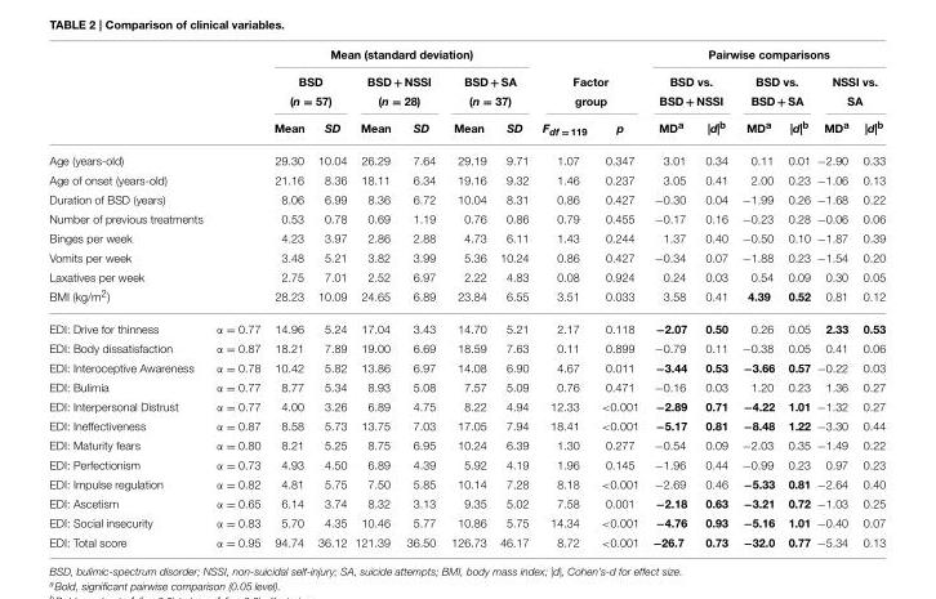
<table><thead><tr><td rowspan="3"></td><td rowspan="3"></td><td colspan="6">Mean (standard deviation)</td><td></td><td></td><td colspan="6">Pairwise comparisons</td></tr><tr><td colspan="2">BSD (n = 57)</td><td colspan="2">BSD + NSSI (n = 28)</td><td colspan="2">BSD + SA (n = 37)</td><td colspan="2">Factor group</td><td colspan="2">BSD vs. BSD + NSSI</td><td colspan="2">BSD vs. BSD + SA</td><td colspan="2">NSSI vs. SA</td></tr><tr><td>Mean</td><td>SD</td><td>Mean</td><td>SD</td><td>Mean</td><td>SD</td><td>F<sub>df</sub> = 119</td><td>p</td><td>MD<sup>a</sup></td><td>|d|<sup>b</sup></td><td>MD<sup>a</sup></td><td>|d|<sup>b</sup></td><td>MD<sup>a</sup></td><td>|d|<sup>b</sup></td></tr></thead><tbody><tr><td>Age (years-old)</td><td></td><td>29.30</td><td>10.04</td><td>26.29</td><td>7.64</td><td>29.19</td><td>9.71</td><td>1.07</td><td>0.347</td><td>3.01</td><td>0.34</td><td>0.11</td><td>0.01</td><td>−2.90</td><td>0.33</td></tr><tr><td>Age of onset (years-old)</td><td></td><td>21.16</td><td>8.36</td><td>18.11</td><td>6.34</td><td>19.16</td><td>9.32</td><td>1.46</td><td>0.237</td><td>3.05</td><td>0.41</td><td>2.00</td><td>0.23</td><td>−1.06</td><td>0.13</td></tr><tr><td>Duration of BSD (years)</td><td></td><td>8.06</td><td>6.99</td><td>8.36</td><td>6.72</td><td>10.04</td><td>8.31</td><td>0.86</td><td>0.427</td><td>−0.30</td><td>0.04</td><td>−1.99</td><td>0.26</td><td>−1.68</td><td>0.22</td></tr><tr><td>Number of previous treatments</td><td></td><td>0.53</td><td>0.78</td><td>0.69</td><td>1.19</td><td>0.76</td><td>0.86</td><td>0.79</td><td>0.455</td><td>−0.17</td><td>0.16</td><td>−0.23</td><td>0.28</td><td>−0.06</td><td>0.06</td></tr><tr><td>Binges per week</td><td></td><td>4.23</td><td>3.97</td><td>2.86</td><td>2.88</td><td>4.73</td><td>6.11</td><td>1.43</td><td>0.244</td><td>1.37</td><td>0.40</td><td>−0.50</td><td>0.10</td><td>−1.87</td><td>0.39</td></tr><tr><td>Vomits per week</td><td></td><td>3.48</td><td>5.21</td><td>3.82</td><td>3.99</td><td>5.36</td><td>10.24</td><td>0.86</td><td>0.427</td><td>−0.34</td><td>0.07</td><td>−1.88</td><td>0.23</td><td>−1.54</td><td>0.20</td></tr><tr><td>Laxatives per week</td><td></td><td>2.75</td><td>7.01</td><td>2.52</td><td>6.97</td><td>2.22</td><td>4.83</td><td>0.08</td><td>0.924</td><td>0.24</td><td>0.03</td><td>0.54</td><td>0.09</td><td>0.30</td><td>0.05</td></tr><tr><td>BMI (kg/m2)</td><td></td><td>28.23</td><td>10.09</td><td>24.65</td><td>6.89</td><td>23.84</td><td>6.55</td><td>3.51</td><td>0.033</td><td>3.58</td><td>0.41</td><td>4.39</td><td>0.52</td><td>0.81</td><td>0.12</td></tr><tr><td>EDI: Drive for thinness</td><td>α = 0.77</td><td>14.96</td><td>5.24</td><td>17.04</td><td>3.43</td><td>14.70</td><td>5.21</td><td>2.17</td><td>0.118</td><td>−2.07</td><td>0.50</td><td>0.26</td><td>0.05</td><td>2.33</td><td>0.53</td></tr><tr><td>EDI: Body dissatisfaction</td><td>α = 0.87</td><td>18.21</td><td>7.89</td><td>19.00</td><td>6.69</td><td>18.59</td><td>7.63</td><td>0.11</td><td>0.899</td><td>−0.79</td><td>0.11</td><td>−0.38</td><td>0.05</td><td>0.41</td><td>0.06</td></tr><tr><td>EDI: Interoceptive Awareness</td><td>α = 0.78</td><td>10.42</td><td>5.82</td><td>13.86</td><td>6.97</td><td>14.08</td><td>6.90</td><td>4.67</td><td>0.011</td><td>−3.44</td><td>0.53</td><td>−3.66</td><td>0.57</td><td>−0.22</td><td>0.03</td></tr><tr><td>EDI: Bulimia</td><td>α = 0.77</td><td>8.77</td><td>5.34</td><td>8.93</td><td>5.08</td><td>7.57</td><td>5.09</td><td>0.76</td><td>0.471</td><td>−0.16</td><td>0.03</td><td>1.20</td><td>0.23</td><td>1.36</td><td>0.27</td></tr><tr><td>EDI: Interpersonal Distrust</td><td>α = 0.77</td><td>4.00</td><td>3.26</td><td>6.89</td><td>4.75</td><td>8.22</td><td>4.94</td><td>12.33</td><td>&lt;0.001</td><td>−2.89</td><td>0.71</td><td>−4.22</td><td>1.01</td><td>−1.32</td><td>0.27</td></tr><tr><td>EDI: Ineffectiveness</td><td>α = 0.87</td><td>8.58</td><td>5.73</td><td>13.75</td><td>7.03</td><td>17.05</td><td>7.94</td><td>18.41</td><td>&lt;0.001</td><td>−5.17</td><td>0.81</td><td>−8.48</td><td>1.22</td><td>−3.30</td><td>0.44</td></tr><tr><td>EDI: Maturity fears</td><td>α = 0.80</td><td>8.21</td><td>5.25</td><td>8.75</td><td>6.95</td><td>10.24</td><td>6.39</td><td>1.30</td><td>0.277</td><td>−0.54</td><td>0.09</td><td>−2.03</td><td>0.35</td><td>−1.49</td><td>0.22</td></tr><tr><td>EDI: Perfectionism</td><td>α = 0.73</td><td>4.93</td><td>4.50</td><td>6.89</td><td>4.39</td><td>5.92</td><td>4.19</td><td>1.96</td><td>0.145</td><td>−1.96</td><td>0.44</td><td>−0.99</td><td>0.23</td><td>0.97</td><td>0.23</td></tr><tr><td>EDI: Impulse regulation</td><td>α = 0.82</td><td>4.81</td><td>5.75</td><td>7.50</td><td>5.85</td><td>10.14</td><td>7.28</td><td>8.18</td><td>&lt;0.001</td><td>−2.69</td><td>0.46</td><td>−5.33</td><td>0.81</td><td>−2.64</td><td>0.40</td></tr><tr><td>EDI: Ascetism</td><td>α = 0.65</td><td>6.14</td><td>3.74</td><td>8.32</td><td>3.13</td><td>9.35</td><td>5.02</td><td>7.58</td><td>0.001</td><td>−2.18</td><td>0.63</td><td>−3.21</td><td>0.72</td><td>−1.03</td><td>0.25</td></tr><tr><td>EDI: Social insecurity</td><td>α = 0.83</td><td>5.70</td><td>4.35</td><td>10.46</td><td>5.77</td><td>10.86</td><td>5.75</td><td>14.34</td><td>&lt;0.001</td><td>−4.76</td><td>0.93</td><td>−5.16</td><td>1.01</td><td>−0.40</td><td>0.07</td></tr><tr><td>EDI: Total score</td><td>α = 0.95</td><td>94.74</td><td>36.12</td><td>121.39</td><td>36.50</td><td>126.73</td><td>46.17</td><td>8.72</td><td>&lt;0.001</td><td>−26.7</td><td>0.73</td><td>−32.0</td><td>0.77</td><td>−5.34</td><td>0.13</td></tr></tbody></table>